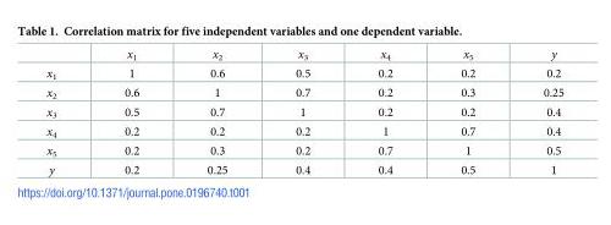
<table><thead><tr><td></td><td>x<sub>1</sub></td><td>x<sub>2</sub></td><td>x<sub>3</sub></td><td>x<sub>4</sub></td><td>x<sub>5</sub></td><td>y</td></tr></thead><tbody><tr><td>x<sub>1</sub></td><td>1</td><td>0.6</td><td>0.5</td><td>0.2</td><td>0.2</td><td>0.2</td></tr><tr><td>x<sub>2</sub></td><td>0.6</td><td>1</td><td>0.7</td><td>0.2</td><td>0.3</td><td>0.25</td></tr><tr><td>x<sub>3</sub></td><td>0.5</td><td>0.7</td><td>1</td><td>0.2</td><td>0.2</td><td>0.4</td></tr><tr><td>x<sub>4</sub></td><td>0.2</td><td>0.2</td><td>0.2</td><td>1</td><td>0.7</td><td>0.4</td></tr><tr><td>x<sub>5</sub></td><td>0.2</td><td>0.3</td><td>0.2</td><td>0.7</td><td>1</td><td>0.5</td></tr><tr><td>y</td><td>0.2</td><td>0.25</td><td>0.4</td><td>0.4</td><td>0.5</td><td>1</td></tr></tbody></table>